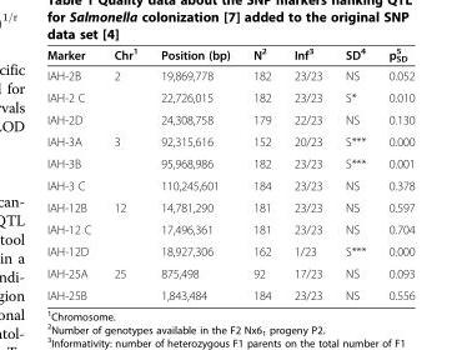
<table><thead><tr><td>Marker</td><td>Chr<sup>1</sup></td><td>Position (bp)</td><td>N<sup>2</sup></td><td>Inf<sup>3</sup></td><td>SD<sup>4</sup></td><td>p<sub>SD</sub> <sup>5</sup></td></tr></thead><tbody><tr><td>IAH-2B</td><td>2</td><td>19,869,778</td><td>182</td><td>23/23</td><td>NS</td><td>0.052</td></tr><tr><td>IAH-2 C</td><td></td><td>22,726,015</td><td>182</td><td>23/23</td><td>S*</td><td>0.010</td></tr><tr><td>IAH-2D</td><td></td><td>24,308,758</td><td>179</td><td>22/23</td><td>NS</td><td>0.130</td></tr><tr><td>IAH-3A</td><td>3</td><td>92,315,616</td><td>152</td><td>20/23</td><td>S***</td><td>0.000</td></tr><tr><td>IAH-3B</td><td></td><td>95,968,986</td><td>182</td><td>23/23</td><td>S***</td><td>0.001</td></tr><tr><td>IAH-3 C</td><td></td><td>110,245,601</td><td>184</td><td>23/23</td><td>NS</td><td>0.378</td></tr><tr><td>IAH-12B</td><td>12</td><td>14,781,290</td><td>181</td><td>23/23</td><td>NS</td><td>0.597</td></tr><tr><td>IAH-12 C</td><td></td><td>17,496,361</td><td>181</td><td>23/23</td><td>NS</td><td>0.704</td></tr><tr><td>IAH-12D</td><td></td><td>18,927,306</td><td>162</td><td>1/23</td><td>S***</td><td>0.000</td></tr><tr><td>IAH-25A</td><td>25</td><td>875,498</td><td>92</td><td>17/23</td><td>NS</td><td>0.093</td></tr><tr><td>IAH-25B</td><td></td><td>1,843,484</td><td>184</td><td>23/23</td><td>NS</td><td>0.556</td></tr></tbody></table>